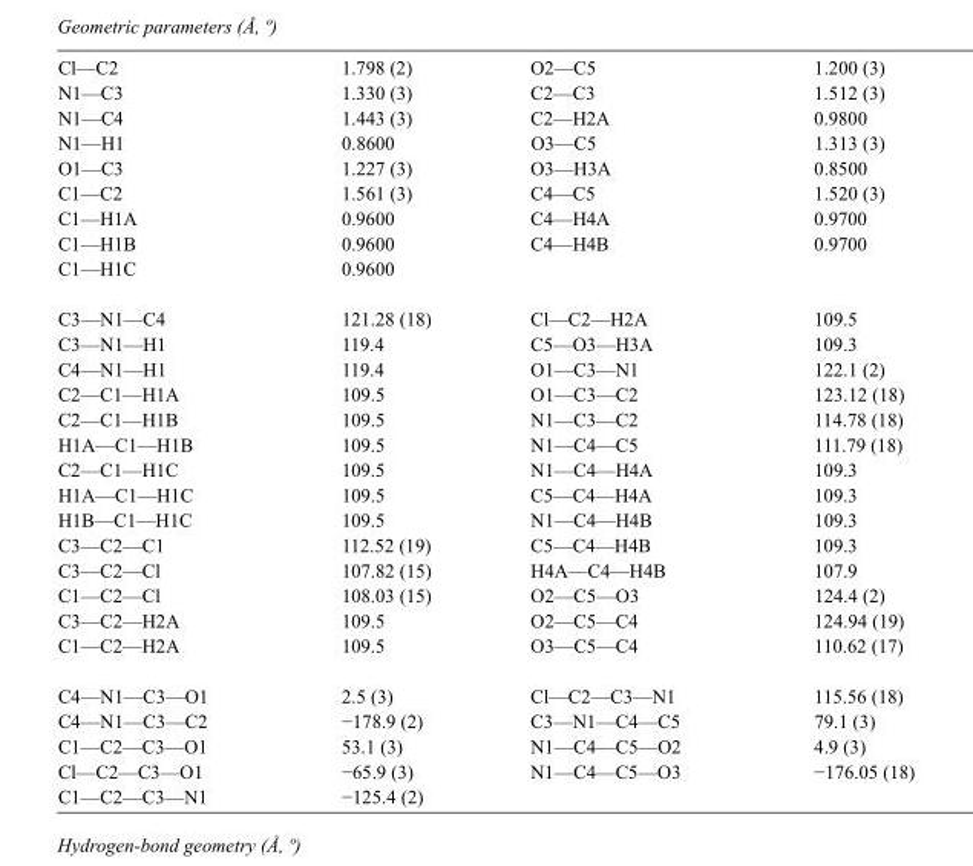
<table><tbody><tr><td>Cl—C2</td><td>1.798 (2)</td><td>O2—C5</td><td>1.200 (3)</td></tr><tr><td>N1—C3</td><td>1.330 (3)</td><td>C2—C3</td><td>1.512 (3)</td></tr><tr><td>N1—C4</td><td>1.443 (3)</td><td>C2—H2A</td><td>0.9800</td></tr><tr><td>N1—H1</td><td>0.8600</td><td>O3—C5</td><td>1.313 (3)</td></tr><tr><td>O1—C3</td><td>1.227 (3)</td><td>O3—H3A</td><td>0.8500</td></tr><tr><td>C1—C2</td><td>1.561 (3)</td><td>C4—C5</td><td>1.520 (3)</td></tr><tr><td>C1—H1A</td><td>0.9600</td><td>C4—H4A</td><td>0.9700</td></tr><tr><td>C1—H1B</td><td>0.9600</td><td>C4—H4B</td><td>0.9700</td></tr><tr><td>C1—H1C</td><td>0.9600</td><td></td><td></td></tr><tr><td>C3—N1—C4</td><td>121.28 (18)</td><td>Cl—C2—H2A</td><td>109.5</td></tr><tr><td>C3—N1—H1</td><td>119.4</td><td>C5—O3—H3A</td><td>109.3</td></tr><tr><td>C4—N1—H1</td><td>119.4</td><td>O1—C3—N1</td><td>122.1 (2)</td></tr><tr><td>C2—C1—H1A</td><td>109.5</td><td>O1—C3—C2</td><td>123.12 (18)</td></tr><tr><td>C2—C1—H1B</td><td>109.5</td><td>N1—C3—C2</td><td>114.78 (18)</td></tr><tr><td>H1A—C1—H1B</td><td>109.5</td><td>N1—C4—C5</td><td>111.79 (18)</td></tr><tr><td>C2—C1—H1C</td><td>109.5</td><td>N1—C4—H4A</td><td>109.3</td></tr><tr><td>H1A—C1—H1C</td><td>109.5</td><td>C5—C4—H4A</td><td>109.3</td></tr><tr><td>H1B—C1—H1C</td><td>109.5</td><td>N1—C4—H4B</td><td>109.3</td></tr><tr><td>C3—C2—C1</td><td>112.52 (19)</td><td>C5—C4—H4B</td><td>109.3</td></tr><tr><td>C3—C2—Cl</td><td>107.82 (15)</td><td>H4A—C4—H4B</td><td>107.9</td></tr><tr><td>C1—C2—Cl</td><td>108.03 (15)</td><td>O2—C5—O3</td><td>124.4 (2)</td></tr><tr><td>C3—C2—H2A</td><td>109.5</td><td>O2—C5—C4</td><td>124.94 (19)</td></tr><tr><td>C1—C2—H2A</td><td>109.5</td><td>O3—C5—C4</td><td>110.62 (17)</td></tr><tr><td>C4—N1—C3—O1</td><td>2.5 (3)</td><td>Cl—C2—C3—N1</td><td>115.56 (18)</td></tr><tr><td>C4—N1—C3—C2</td><td>−178.9 (2)</td><td>C3—N1—C4—C5</td><td>79.1 (3)</td></tr><tr><td>C1—C2—C3—O1</td><td>53.1 (3)</td><td>N1—C4—C5—O2</td><td>4.9 (3)</td></tr><tr><td>Cl—C2—C3—O1</td><td>−65.9 (3)</td><td>N1—C4—C5—O3</td><td>−176.05 (18)</td></tr><tr><td>C1—C2—C3—N1</td><td>−125.4 (2)</td><td></td><td></td></tr></tbody></table>